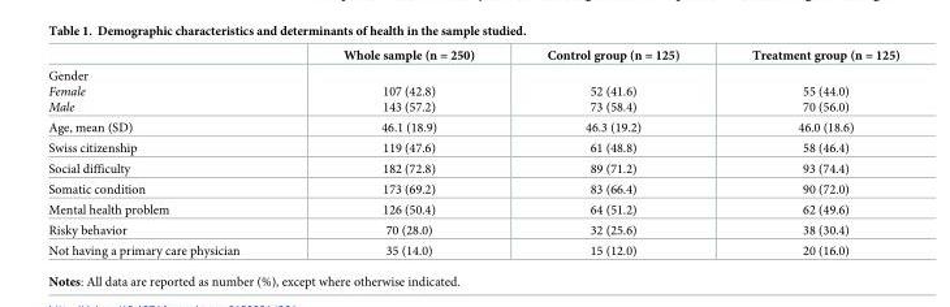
<table><thead><tr><td></td><td>Whole sample (n = 250)</td><td>Control group (n = 125)</td><td>Treatment group (n = 125)</td></tr></thead><tbody><tr><td>Gender Female Male</td><td>107 (42.8) 143 (57.2)</td><td>52 (41.6) 73 (58.4)</td><td>55 (44.0) 70 (56.0)</td></tr><tr><td>Age, mean (SD)</td><td>46.1 (18.9)</td><td>46.3 (19.2)</td><td>46.0 (18.6)</td></tr><tr><td>Swiss citizenship</td><td>119 (47.6)</td><td>61 (48.8)</td><td>58 (46.4)</td></tr><tr><td>Social difficulty</td><td>182 (72.8)</td><td>89 (71.2)</td><td>93 (74.4)</td></tr><tr><td>Somatic condition</td><td>173 (69.2)</td><td>83 (66.4)</td><td>90 (72.0)</td></tr><tr><td>Mental health problem</td><td>126 (50.4)</td><td>64 (51.2)</td><td>62 (49.6)</td></tr><tr><td>Risky behavior</td><td>70 (28.0)</td><td>32 (25.6)</td><td>38 (30.4)</td></tr><tr><td>Not having a primary care physician</td><td>35 (14.0)</td><td>15 (12.0)</td><td>20 (16.0)</td></tr></tbody></table>